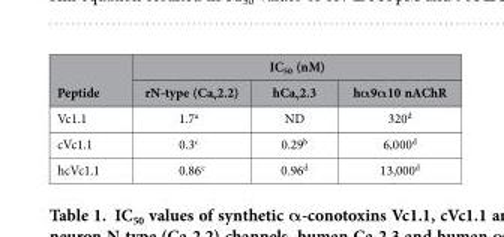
<table><thead><tr><td rowspan="2">Peptide</td><td colspan="3">IC<sub>50</sub> (nM)</td></tr><tr><td>rN-type (Ca<sub>v</sub>2.2)</td><td>hCa<sub>v</sub>2.3</td><td>hα9α10 nAChR</td></tr></thead><tbody><tr><td>Vc1.1</td><td>1.7<sup>a</sup></td><td>ND</td><td>320<sup>d</sup></td></tr><tr><td>cVc1.1</td><td>0.3<sup>c</sup></td><td>0.29<sup>b</sup></td><td>6,000<sup>d</sup></td></tr><tr><td>hcVc1.1</td><td>0.86<sup>c</sup></td><td>0.96<sup>d</sup></td><td>13,000<sup>d</sup></td></tr></tbody></table>